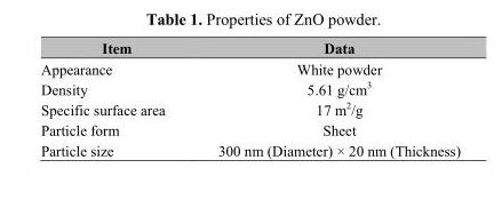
<table><thead><tr><td>Item</td><td>Data</td></tr></thead><tbody><tr><td>Appearance</td><td>White powder</td></tr><tr><td>Density</td><td>5.61 g/cm<sup>3</sup></td></tr><tr><td>Specific surface area</td><td>17 m<sup>2</sup>/g</td></tr><tr><td>Particle form</td><td>Sheet</td></tr><tr><td>Particle size</td><td>300 nm (Diameter) × 20 nm (Thickness)</td></tr></tbody></table>